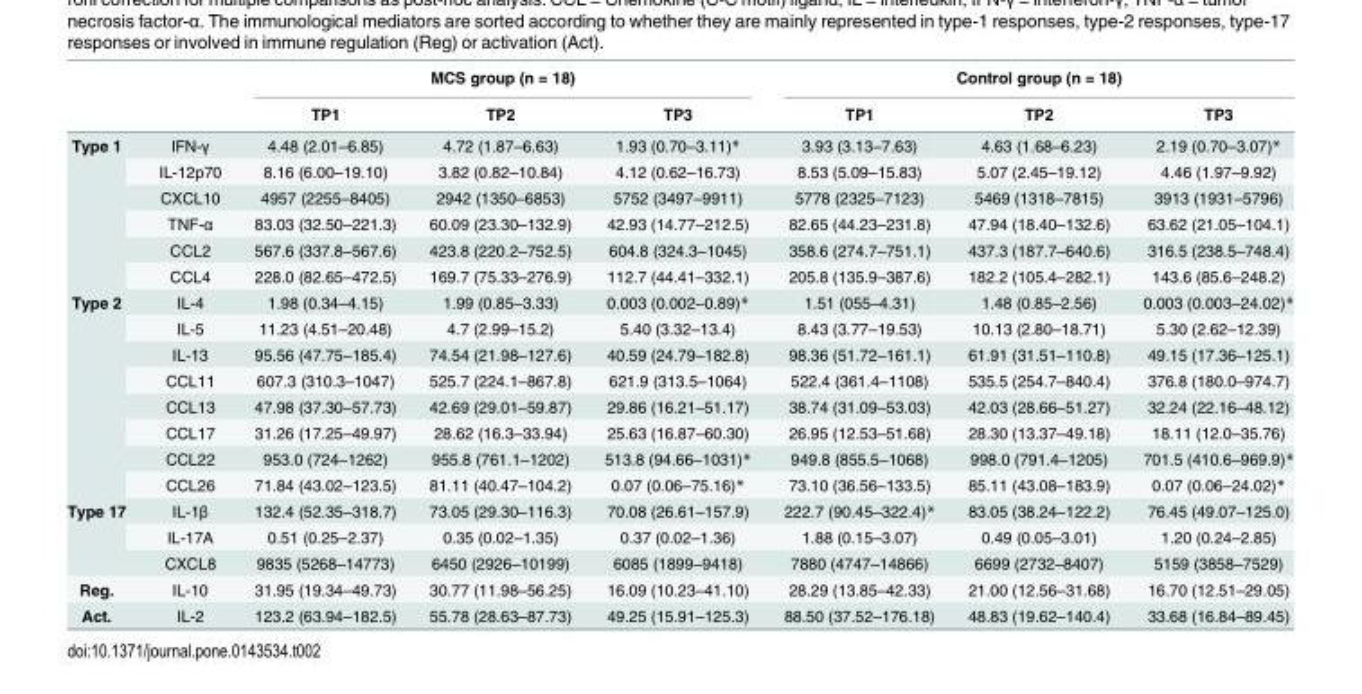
<table><thead><tr><td rowspan="2"></td><td rowspan="2"></td><td colspan="3">MCS group (n = 18)</td><td colspan="3">Control group (n = 18)</td></tr><tr><td>TP1</td><td>TP2</td><td>TP3</td><td>TP1</td><td>TP2</td><td>TP3</td></tr></thead><tbody><tr><td rowspan="6">Type 1</td><td>IFN-γ</td><td>4.48 (2.01–6.85)</td><td>4.72 (1.87–6.63)</td><td>1.93 (0.70–3.11)*</td><td>3.93 (3.13–7.63)</td><td>4.63 (1.68–6.23)</td><td>2.19 (0.70–3.07)*</td></tr><tr><td>IL-12p70</td><td>8.16 (6.00–19.10)</td><td>3.82 (0.82–10.84)</td><td>4.12 (0.62–16.73)</td><td>8.53 (5.09–15.83)</td><td>5.07 (2.45–19.12)</td><td>4.46 (1.97–9.92)</td></tr><tr><td>CXCL10</td><td>4957 (2255–8405)</td><td>2942 (1350–6853)</td><td>5752 (3497–9911)</td><td>5778 (2325–7123)</td><td>5469 (1318–7815)</td><td>3913 (1931–5796)</td></tr><tr><td>TNF-α</td><td>83.03 (32.50–221.3)</td><td>60.09 (23.30–132.9)</td><td>42.93 (14.77–212.5)</td><td>82.65 (44.23–231.8)</td><td>47.94 (18.40–132.6)</td><td>63.62 (21.05–104.1)</td></tr><tr><td>CCL2</td><td>567.6 (337.8–567.6)</td><td>423.8 (220.2–752.5)</td><td>604.8 (324.3–1045)</td><td>358.6 (274.7–751.1)</td><td>437.3 (187.7–640.6)</td><td>316.5 (238.5–748.4)</td></tr><tr><td>CCL4</td><td>228.0 (82.65–472.5)</td><td>169.7 (75.33–276.9)</td><td>112.7 (44.41–332.1)</td><td>205.8 (135.9–387.6)</td><td>182.2 (105.4–282.1)</td><td>143.6 (85.6–248.2)</td></tr><tr><td rowspan="8">Type 2</td><td>IL-4</td><td>1.98 (0.34–4.15)</td><td>1.99 (0.85–3.33)</td><td>0.003 (0.002–0.89)*</td><td>1.51 (055–4.31)</td><td>1.48 (0.85–2.56)</td><td>0.003 (0.003–24.02)*</td></tr><tr><td>IL-5</td><td>11.23 (4.51–20.48)</td><td>4.7 (2.99–15.2)</td><td>5.40 (3.32–13.4)</td><td>8.43 (3.77–19.53)</td><td>10.13 (2.80–18.71)</td><td>5.30 (2.62–12.39)</td></tr><tr><td>IL-13</td><td>95.56 (47.75–185.4)</td><td>74.54 (21.98–127.6)</td><td>40.59 (24.79–182.8)</td><td>98.36 (51.72–161.1)</td><td>61.91 (31.51–110.8)</td><td>49.15 (17.36–125.1)</td></tr><tr><td>CCL11</td><td>607.3 (310.3–1047)</td><td>525.7 (224.1–867.8)</td><td>621.9 (313.5–1064)</td><td>522.4 (361.4–1108)</td><td>535.5 (254.7–840.4)</td><td>376.8 (180.0–974.7)</td></tr><tr><td>CCL13</td><td>47.98 (37.30–57.73)</td><td>42.69 (29.01–59.87)</td><td>29.86 (16.21–51.17)</td><td>38.74 (31.09–53.03)</td><td>42.03 (28.66–51.27)</td><td>32.24 (22.16–48.12)</td></tr><tr><td>CCL17</td><td>31.26 (17.25–49.97)</td><td>28.62 (16.3–33.94)</td><td>25.63 (16.87–60.30)</td><td>26.95 (12.53–51.68)</td><td>28.30 (13.37–49.18)</td><td>18.11 (12.0–35.76)</td></tr><tr><td>CCL22</td><td>953.0 (724–1262)</td><td>955.8 (761.1–1202)</td><td>513.8 (94.66–1031)*</td><td>949.8 (855.5–1068)</td><td>998.0 (791.4–1205)</td><td>701.5 (410.6–969.9)*</td></tr><tr><td>CCL26</td><td>71.84 (43.02–123.5)</td><td>81.11 (40.47–104.2)</td><td>0.07 (0.06–75.16)*</td><td>73.10 (36.56–133.5)</td><td>85.11 (43.08–183.9)</td><td>0.07 (0.06–24.02)*</td></tr><tr><td rowspan="3">Type 17</td><td>IL-1β</td><td>132.4 (52.35–318.7)</td><td>73.05 (29.30–116.3)</td><td>70.08 (26.61–157.9)</td><td>222.7 (90.45–322.4)*</td><td>83.05 (38.24–122.2)</td><td>76.45 (49.07–125.0)</td></tr><tr><td>IL-17A</td><td>0.51 (0.25–2.37)</td><td>0.35 (0.02–1.35)</td><td>0.37 (0.02–1.36)</td><td>1.88 (0.15–3.07)</td><td>0.49 (0.05–3.01)</td><td>1.20 (0.24–2.85)</td></tr><tr><td>CXCL8</td><td>9835 (5268–14773)</td><td>6450 (2926–10199)</td><td>6085 (1899–9418)</td><td>7880 (4747–14866)</td><td>6699 (2732–8407)</td><td>5159 (3858–7529)</td></tr><tr><td>Reg.</td><td>IL-10</td><td>31.95 (19.34–49.73)</td><td>30.77 (11.98–56.25)</td><td>16.09 (10.23–41.10)</td><td>28.29 (13.85–42.33)</td><td>21.00 (12.56–31.68)</td><td>16.70 (12.51–29.05)</td></tr><tr><td>Act.</td><td>IL-2</td><td>123.2 (63.94–182.5)</td><td>55.78 (28.63–87.73)</td><td>49.25 (15.91–125.3)</td><td>88.50 (37.52–176.18)</td><td>48.83 (19.62–140.4)</td><td>33.68 (16.84–89.45)</td></tr></tbody></table>